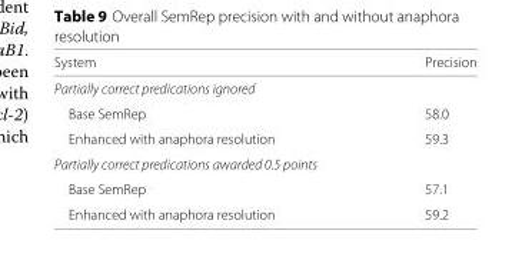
<table><thead><tr><td>System</td><td>Precision</td></tr></thead><tbody><tr><td colspan="2">Partially correct predications ignored</td></tr><tr><td>Base SemRep</td><td>58.0</td></tr><tr><td>Enhanced with anaphora resolution</td><td>59.3</td></tr><tr><td colspan="2">Partially correct predications awarded 0.5 points</td></tr><tr><td>Base SemRep</td><td>57.1</td></tr><tr><td>Enhanced with anaphora resolution</td><td>59.2</td></tr></tbody></table>